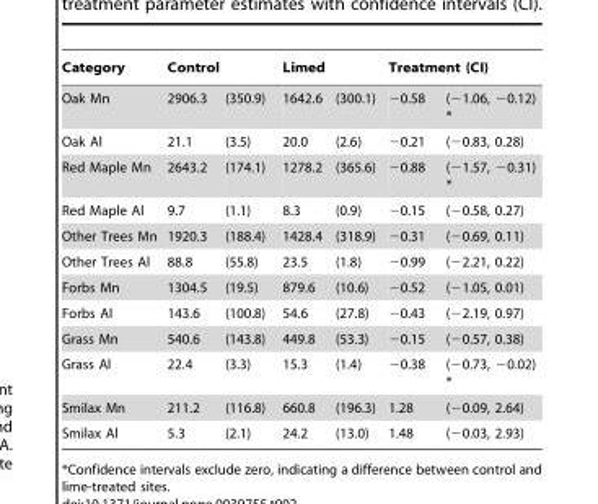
<table><thead><tr><td rowspan="2">Category Oak Mn</td><td colspan="2">Control</td><td colspan="2">Limed</td><td colspan="2">Treatment (CI)</td></tr><tr><td>2906.3</td><td>(350.9)</td><td>1642.6</td><td>(300.1)</td><td>−0.58</td><td>(−1.06, −0.12) *</td></tr></thead><tbody><tr><td>Oak Al</td><td>21.1</td><td>(3.5)</td><td>20.0</td><td>(2.6)</td><td>−0.21</td><td>(−0.83, 0.28)</td></tr><tr><td>Red Maple Mn</td><td>2643.2</td><td>(174.1)</td><td>1278.2</td><td>(365.6)</td><td>−0.88</td><td>(−1.57, −0.31) *</td></tr><tr><td>Red Maple Al</td><td>9.7</td><td>(1.1)</td><td>8.3</td><td>(0.9)</td><td>−0.15</td><td>(−0.58, 0.27)</td></tr><tr><td>Other Trees Mn</td><td>1920.3</td><td>(188.4)</td><td>1428.4</td><td>(318.9)</td><td>−0.31</td><td>(−0.69, 0.11)</td></tr><tr><td>Other Trees Al</td><td>88.8</td><td>(55.8)</td><td>23.5</td><td>(1.8)</td><td>−0.99</td><td>(−2.21, 0.22)</td></tr><tr><td>Forbs Mn</td><td>1304.5</td><td>(19.5)</td><td>879.6</td><td>(10.6)</td><td>−0.52</td><td>(−1.05, 0.01)</td></tr><tr><td>Forbs Al</td><td>143.6</td><td>(100.8)</td><td>54.6</td><td>(27.8)</td><td>−0.43</td><td>(−2.19, 0.97)</td></tr><tr><td>Grass Mn</td><td>540.6</td><td>(143.8)</td><td>449.8</td><td>(53.3)</td><td>−0.15</td><td>(−0.57, 0.38)</td></tr><tr><td>Grass Al</td><td>22.4</td><td>(3.3)</td><td>15.3</td><td>(1.4)</td><td>−0.38</td><td>(−0.73, −0.02) *</td></tr><tr><td>Smilax Mn</td><td>211.2</td><td>(116.8)</td><td>660.8</td><td>(196.3)</td><td>1.28</td><td>(−0.09, 2.64)</td></tr><tr><td>Smilax Al</td><td>5.3</td><td>(2.1)</td><td>24.2</td><td>(13.0)</td><td>1.48</td><td>(−0.03, 2.93)</td></tr></tbody></table>